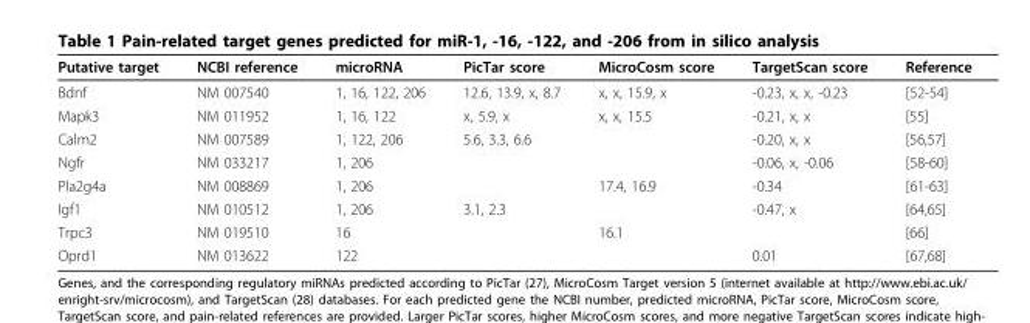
<table><thead><tr><td>Putative target</td><td>NCBI reference</td><td>microRNA</td><td>PicTar score</td><td>MicroCosm score</td><td>TargetScan score</td><td>Reference</td></tr></thead><tbody><tr><td>Bdnf</td><td>NM 007540</td><td>1, 16, 122, 206</td><td>12.6, 13.9, x, 8.7</td><td>x, x, 15.9, x</td><td>-0.23, x, x, -0.23</td><td>[52-54]</td></tr><tr><td>Mapk3</td><td>NM 011952</td><td>1, 16, 122</td><td>x, 5.9, x</td><td>x, x, 15.5</td><td>-0.21, x, x</td><td>[55]</td></tr><tr><td>Calm2</td><td>NM 007589</td><td>1, 122, 206</td><td>5.6, 3.3, 6.6</td><td></td><td>-0.20, x, x</td><td>[56,57]</td></tr><tr><td>Ngfr</td><td>NM 033217</td><td>1, 206</td><td></td><td></td><td>-0.06, x, -0.06</td><td>[58-60]</td></tr><tr><td>Pla2g4a</td><td>NM 008869</td><td>1, 206</td><td></td><td>17.4, 16.9</td><td>-0.34</td><td>[61-63]</td></tr><tr><td>Igf1</td><td>NM 010512</td><td>1, 206</td><td>3.1, 2.3</td><td></td><td>-0.47, x</td><td>[64,65]</td></tr><tr><td>Trpc3</td><td>NM 019510</td><td>16</td><td></td><td>16.1</td><td></td><td>[66]</td></tr><tr><td>Oprd1</td><td>NM 013622</td><td>122</td><td></td><td></td><td>0.01</td><td>[67,68]</td></tr></tbody></table>